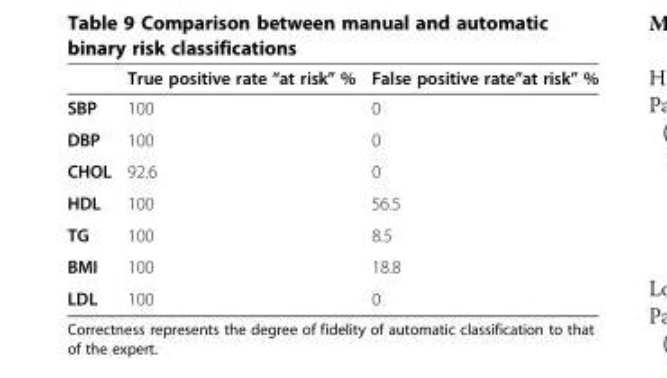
<table><thead><tr><td></td><td>True positive rate “at risk” %</td><td>False positive rate”at risk” %</td></tr></thead><tbody><tr><td>SBP</td><td>100</td><td>0</td></tr><tr><td>DBP</td><td>100</td><td>0</td></tr><tr><td>CHOL</td><td>92.6</td><td>0</td></tr><tr><td>HDL</td><td>100</td><td>56.5</td></tr><tr><td>TG</td><td>100</td><td>8.5</td></tr><tr><td>BMI</td><td>100</td><td>18.8</td></tr><tr><td>LDL</td><td>100</td><td>0</td></tr></tbody></table>